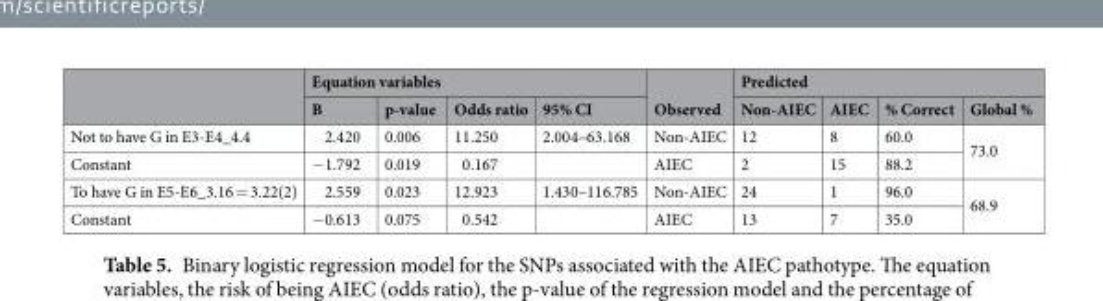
<table><thead><tr><td rowspan="2"></td><td colspan="4">Equation variables</td><td rowspan="2">Observed</td><td colspan="4">Predicted</td></tr><tr><td>B</td><td>p-value</td><td>Odds ratio</td><td>95% CI</td><td>Non-AIEC</td><td>AIEC</td><td>% Correct</td><td>Global %</td></tr></thead><tbody><tr><td>Not to have G in E3-E4_4.4</td><td>2.420</td><td>0.006</td><td>11.250</td><td>2.004–63.168</td><td>Non-AIEC</td><td>12</td><td>8</td><td>60.0</td><td rowspan="2">73.0</td></tr><tr><td>Constant</td><td>−1.792</td><td>0.019</td><td>0.167</td><td></td><td>AIEC</td><td>2</td><td>15</td><td>88.2</td></tr><tr><td>To have G in E5-E6_3.16 = 3.22(2)</td><td>2.559</td><td>0.023</td><td>12.923</td><td>1.430–116.785</td><td>Non-AIEC</td><td>24</td><td>1</td><td>96.0</td><td rowspan="2">68.9</td></tr><tr><td>Constant</td><td>−0.613</td><td>0.075</td><td>0.542</td><td></td><td>AIEC</td><td>13</td><td>7</td><td>35.0</td></tr></tbody></table>